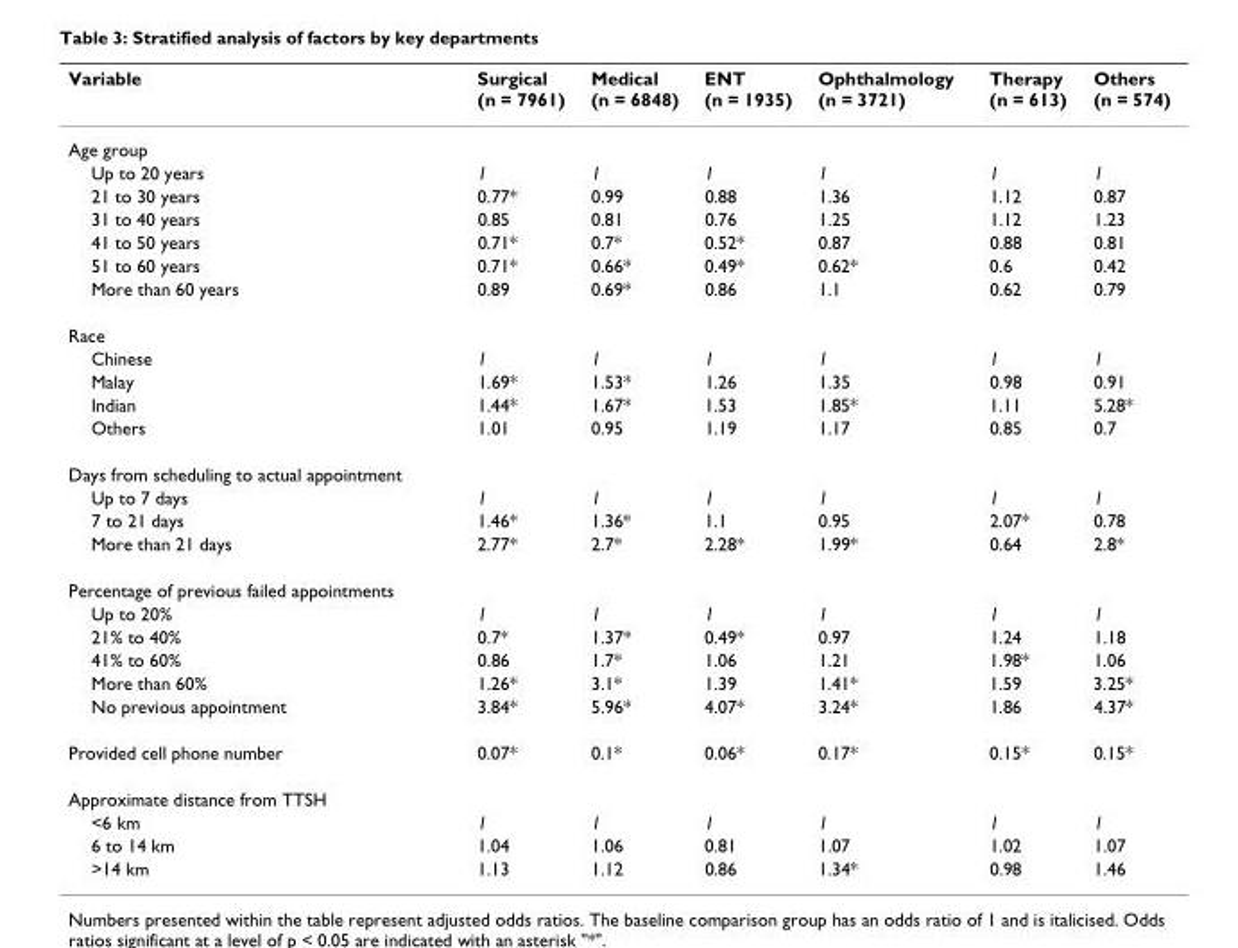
<table><thead><tr><td>Variable</td><td>Surgical (n = 7961)</td><td>Medical (n = 6848)</td><td>ENT (n = 1935)</td><td>Ophthalmology (n = 3721)</td><td>Therapy (n = 613)</td><td>Others (n = 574)</td></tr></thead><tbody><tr><td colspan="7">Age group</td></tr><tr><td>Up to 20 years</td><td>1</td><td>1</td><td>1</td><td>1</td><td>1</td><td>1</td></tr><tr><td>21 to 30 years</td><td>0.77*</td><td>0.99</td><td>0.88</td><td>1.36</td><td>1.12</td><td>0.87</td></tr><tr><td>31 to 40 years</td><td>0.85</td><td>0.81</td><td>0.76</td><td>1.25</td><td>1.12</td><td>1.23</td></tr><tr><td>41 to 50 years</td><td>0.71*</td><td>0.7*</td><td>0.52*</td><td>0.87</td><td>0.88</td><td>0.81</td></tr><tr><td>51 to 60 years</td><td>0.71*</td><td>0.66*</td><td>0.49*</td><td>0.62*</td><td>0.6</td><td>0.42</td></tr><tr><td>More than 60 years</td><td>0.89</td><td>0.69*</td><td>0.86</td><td>1.1</td><td>0.62</td><td>0.79</td></tr><tr><td colspan="7">Race</td></tr><tr><td>Chinese</td><td>1</td><td>1</td><td>1</td><td>1</td><td>1</td><td>1</td></tr><tr><td>Malay</td><td>1.69*</td><td>1.53*</td><td>1.26</td><td>1.35</td><td>0.98</td><td>0.91</td></tr><tr><td>Indian</td><td>1.44*</td><td>1.67*</td><td>1.53</td><td>1.85*</td><td>1.11</td><td>5.28*</td></tr><tr><td>Others</td><td>1.01</td><td>0.95</td><td>1.19</td><td>1.17</td><td>0.85</td><td>0.7</td></tr><tr><td colspan="7">Days from scheduling to actual appointment</td></tr><tr><td>Up to 7 days</td><td>1</td><td>1</td><td>1</td><td>1</td><td>1</td><td>1</td></tr><tr><td>7 to 21 days</td><td>1.46*</td><td>1.36*</td><td>1.1</td><td>0.95</td><td>2.07*</td><td>0.78</td></tr><tr><td>More than 21 days</td><td>2.77*</td><td>2.7*</td><td>2.28*</td><td>1.99*</td><td>0.64</td><td>2.8*</td></tr><tr><td colspan="7">Percentage of previous failed appointments</td></tr><tr><td>Up to 20%</td><td>1</td><td>1</td><td>1</td><td>1</td><td>1</td><td>1</td></tr><tr><td>21% to 40%</td><td>0.7*</td><td>1.37*</td><td>0.49*</td><td>0.97</td><td>1.24</td><td>1.18</td></tr><tr><td>41% to 60%</td><td>0.86</td><td>1.7*</td><td>1.06</td><td>1.21</td><td>1.98*</td><td>1.06</td></tr><tr><td>More than 60%</td><td>1.26*</td><td>3.1*</td><td>1.39</td><td>1.41*</td><td>1.59</td><td>3.25*</td></tr><tr><td>No previous appointment</td><td>3.84*</td><td>5.96*</td><td>4.07*</td><td>3.24*</td><td>1.86</td><td>4.37*</td></tr><tr><td>Provided cell phone number</td><td>0.07*</td><td>0.1*</td><td>0.06*</td><td>0.17*</td><td>0.15*</td><td>0.15*</td></tr><tr><td colspan="7">Approximate distance from TTSH</td></tr><tr><td>&lt;6 km</td><td>1</td><td>1</td><td>1</td><td>1</td><td>1</td><td>1</td></tr><tr><td>6 to 14 km</td><td>1.04</td><td>1.06</td><td>0.81</td><td>1.07</td><td>1.02</td><td>1.07</td></tr><tr><td>&gt;14 km</td><td>1.13</td><td>1.12</td><td>0.86</td><td>1.34*</td><td>0.98</td><td>1.46</td></tr></tbody></table>